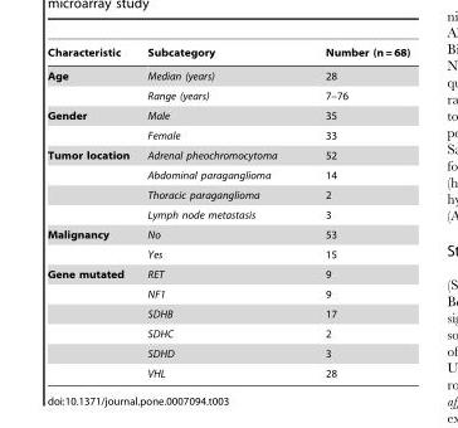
<table><thead><tr><td>Characteristic</td><td>Subcategory</td><td>Number (n = 68)</td></tr></thead><tbody><tr><td rowspan="2">Age</td><td>Median (years)</td><td>28</td></tr><tr><td>Range (years)</td><td>7–76</td></tr><tr><td rowspan="2">Gender</td><td>Male</td><td>35</td></tr><tr><td>Female</td><td>33</td></tr><tr><td rowspan="4">Tumor location</td><td>Adrenal pheochromocytoma</td><td>52</td></tr><tr><td>Abdominal paraganglioma</td><td>14</td></tr><tr><td>Thoracic paraganglioma</td><td>2</td></tr><tr><td>Lymph node metastasis</td><td>3</td></tr><tr><td rowspan="2">Malignancy</td><td>No</td><td>53</td></tr><tr><td>Yes</td><td>15</td></tr><tr><td rowspan="6">Gene mutated</td><td>RET</td><td>9</td></tr><tr><td>NF1</td><td>9</td></tr><tr><td>SDHB</td><td>17</td></tr><tr><td>SDHC</td><td>2</td></tr><tr><td>SDHD</td><td>3</td></tr><tr><td>VHL</td><td>28</td></tr></tbody></table>